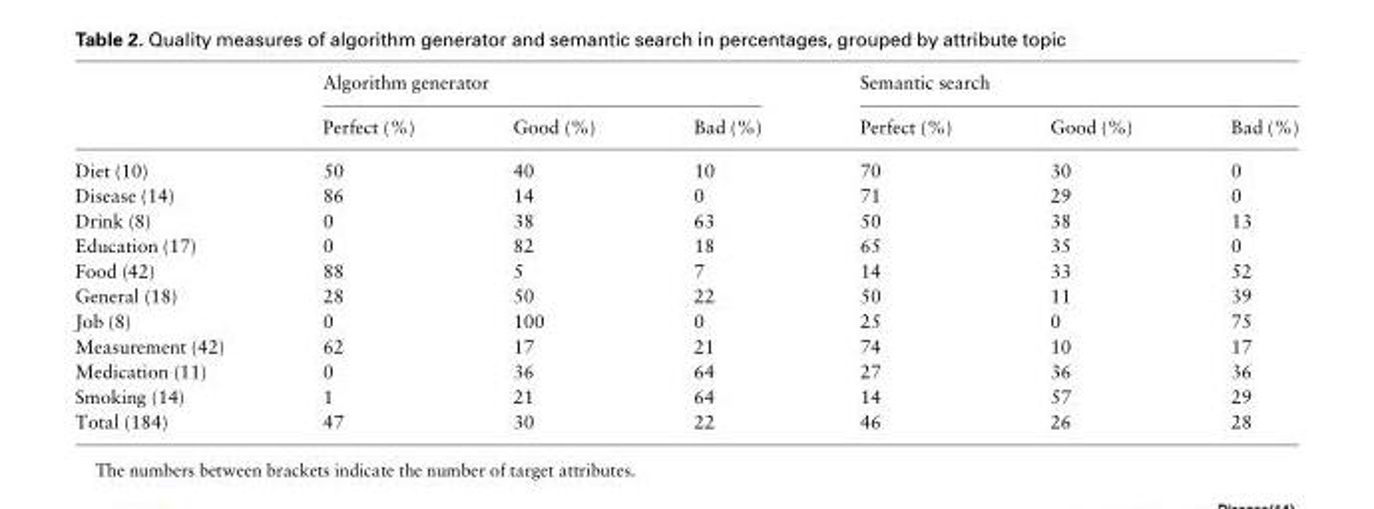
<table><thead><tr><td rowspan="2"></td><td colspan="3">Algorithm generator</td><td colspan="3">Semantic search</td></tr><tr><td>Perfect (%)</td><td>Good (%)</td><td>Bad (%)</td><td>Perfect (%)</td><td>Good (%)</td><td>Bad (%)</td></tr></thead><tbody><tr><td>Diet (10)</td><td>50</td><td>40</td><td>10</td><td>70</td><td>30</td><td>0</td></tr><tr><td>Disease (14)</td><td>86</td><td>14</td><td>0</td><td>71</td><td>29</td><td>0</td></tr><tr><td>Drink (8)</td><td>0</td><td>38</td><td>63</td><td>50</td><td>38</td><td>13</td></tr><tr><td>Education (17)</td><td>0</td><td>82</td><td>18</td><td>65</td><td>35</td><td>0</td></tr><tr><td>Food (42)</td><td>88</td><td>5</td><td>7</td><td>14</td><td>33</td><td>52</td></tr><tr><td>General (18)</td><td>28</td><td>50</td><td>22</td><td>50</td><td>11</td><td>39</td></tr><tr><td>Job (8)</td><td>0</td><td>100</td><td>0</td><td>25</td><td>0</td><td>75</td></tr><tr><td>Measurement (42)</td><td>62</td><td>17</td><td>21</td><td>74</td><td>10</td><td>17</td></tr><tr><td>Medication (11)</td><td>0</td><td>36</td><td>64</td><td>27</td><td>36</td><td>36</td></tr><tr><td>Smoking (14)</td><td>1</td><td>21</td><td>64</td><td>14</td><td>57</td><td>29</td></tr><tr><td>Total (184)</td><td>47</td><td>30</td><td>22</td><td>46</td><td>26</td><td>28</td></tr></tbody></table>